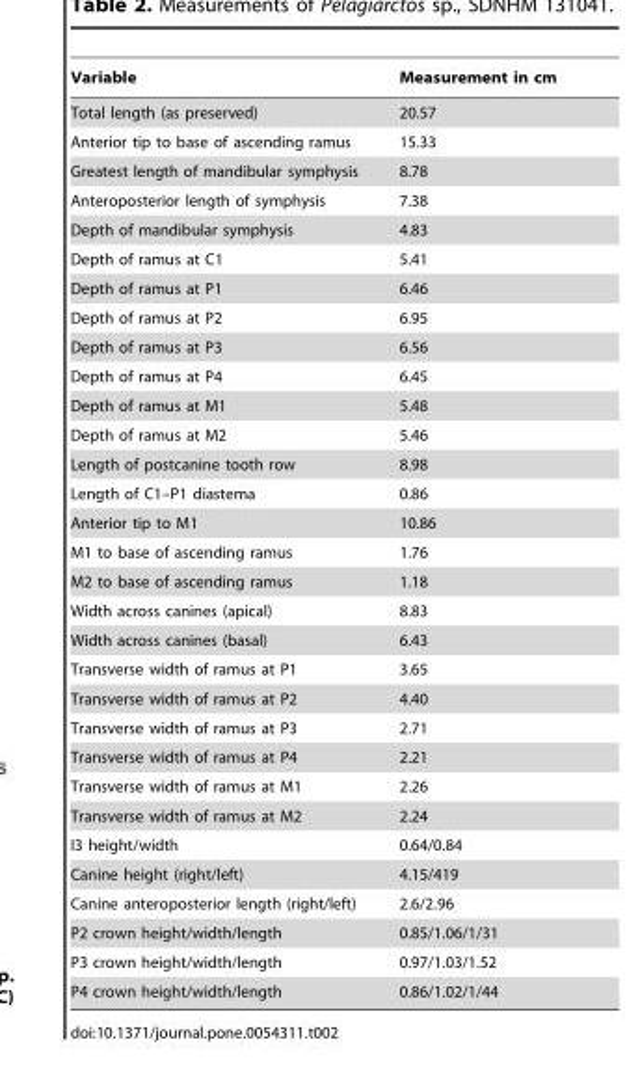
<table><thead><tr><td>Variable</td><td>Measurement in cm</td></tr></thead><tbody><tr><td>Total length (as preserved)</td><td>20.57</td></tr><tr><td>Anterior tip to base of ascending ramus</td><td>15.33</td></tr><tr><td>Greatest length of mandibular symphysis</td><td>8.78</td></tr><tr><td>Anteroposterior length of symphysis</td><td>7.38</td></tr><tr><td>Depth of mandibular symphysis</td><td>4.83</td></tr><tr><td>Depth of ramus at C1</td><td>5.41</td></tr><tr><td>Depth of ramus at P1</td><td>6.46</td></tr><tr><td>Depth of ramus at P2</td><td>6.95</td></tr><tr><td>Depth of ramus at P3</td><td>6.56</td></tr><tr><td>Depth of ramus at P4</td><td>6.45</td></tr><tr><td>Depth of ramus at M1</td><td>5.48</td></tr><tr><td>Depth of ramus at M2</td><td>5.46</td></tr><tr><td>Length of postcanine tooth row</td><td>8.98</td></tr><tr><td>Length of C1–P1 diastema</td><td>0.86</td></tr><tr><td>Anterior tip to M1</td><td>10.86</td></tr><tr><td>M1 to base of ascending ramus</td><td>1.76</td></tr><tr><td>M2 to base of ascending ramus</td><td>1.18</td></tr><tr><td>Width across canines (apical)</td><td>8.83</td></tr><tr><td>Width across canines (basal)</td><td>6.43</td></tr><tr><td>Transverse width of ramus at P1</td><td>3.65</td></tr><tr><td>Transverse width of ramus at P2</td><td>4.40</td></tr><tr><td>Transverse width of ramus at P3</td><td>2.71</td></tr><tr><td>Transverse width of ramus at P4</td><td>2.21</td></tr><tr><td>Transverse width of ramus at M1</td><td>2.26</td></tr><tr><td>Transverse width of ramus at M2</td><td>2.24</td></tr><tr><td>I3 height/width</td><td>0.64/0.84</td></tr><tr><td>Canine height (right/left)</td><td>4.15/419</td></tr><tr><td>Canine anteroposterior length (right/left)</td><td>2.6/2.96</td></tr><tr><td>P2 crown height/width/length</td><td>0.85/1.06/1/31</td></tr><tr><td>P3 crown height/width/length</td><td>0.97/1.03/1.52</td></tr><tr><td>P4 crown height/width/length</td><td>0.86/1.02/1/44</td></tr></tbody></table>